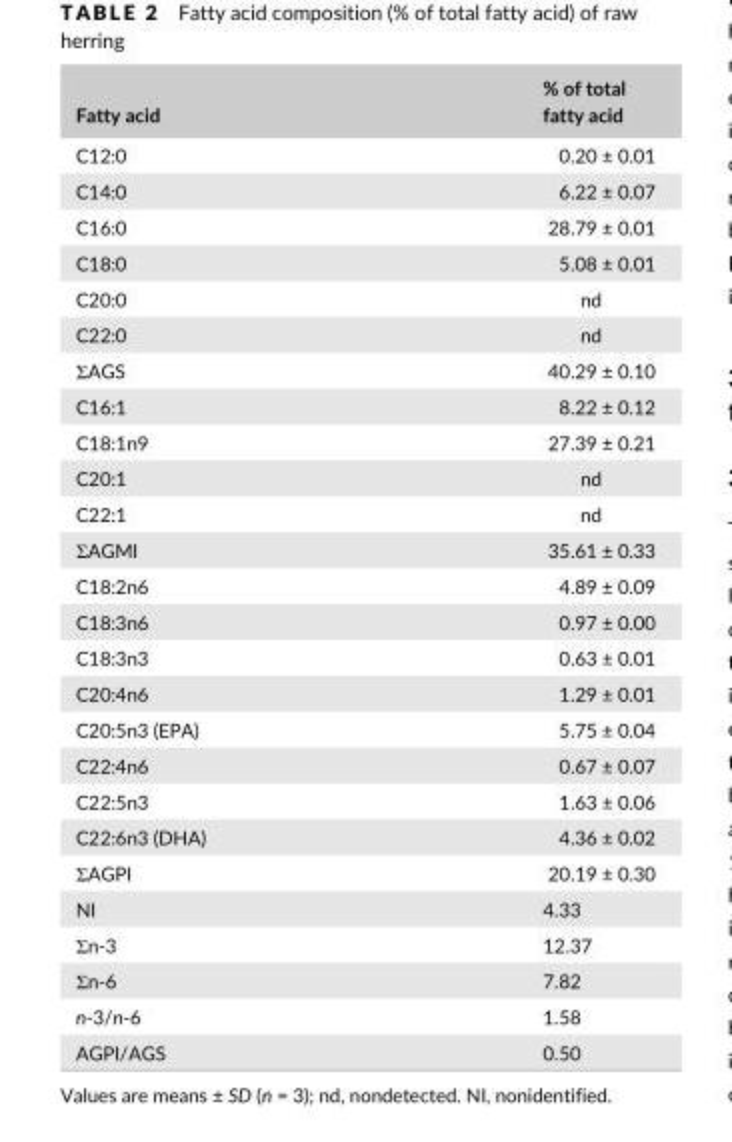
<table><thead><tr><td>Fatty acid</td><td>% of total fatty acid</td></tr></thead><tbody><tr><td>C12:0</td><td>0.20 ± 0.01</td></tr><tr><td>C14:0</td><td>6.22 ± 0.07</td></tr><tr><td>C16:0</td><td>28.79 ± 0.01</td></tr><tr><td>C18:0</td><td>5.08 ± 0.01</td></tr><tr><td>C20:0</td><td>nd</td></tr><tr><td>C22:0</td><td>nd</td></tr><tr><td>ΣAGS</td><td>40.29 ± 0.10</td></tr><tr><td>C16:1</td><td>8.22 ± 0.12</td></tr><tr><td>C18:1n9</td><td>27.39 ± 0.21</td></tr><tr><td>C20:1</td><td>nd</td></tr><tr><td>C22:1</td><td>nd</td></tr><tr><td>ΣAGMI</td><td>35.61 ± 0.33</td></tr><tr><td>C18:2n6</td><td>4.89 ± 0.09</td></tr><tr><td>C18:3n6</td><td>0.97 ± 0.00</td></tr><tr><td>C18:3n3</td><td>0.63 ± 0.01</td></tr><tr><td>C20:4n6</td><td>1.29 ± 0.01</td></tr><tr><td>C20:5n3 (EPA)</td><td>5.75 ± 0.04</td></tr><tr><td>C22:4n6</td><td>0.67 ± 0.07</td></tr><tr><td>C22:5n3</td><td>1.63 ± 0.06</td></tr><tr><td>C22:6n3 (DHA)</td><td>4.36 ± 0.02</td></tr><tr><td>ΣAGPI</td><td>20.19 ± 0.30</td></tr><tr><td>NI</td><td>4.33</td></tr><tr><td>Σn- 3</td><td>12.37</td></tr><tr><td>Σn- 6</td><td>7.82</td></tr><tr><td>n- 3/n- 6</td><td>1.58</td></tr><tr><td>AGPI/AGS</td><td>0.50</td></tr></tbody></table>